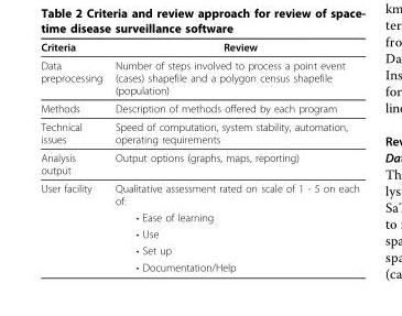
<table><thead><tr><td>Criteria</td><td>Review</td></tr></thead><tbody><tr><td>Data preprocessing</td><td>Number of steps involved to process a point event (cases) shapefile and a polygon census shapefile (population)</td></tr><tr><td>Methods</td><td>Description of methods offered by each program</td></tr><tr><td>Technical issues</td><td>Speed of computation, system stability, automation, operating requirements</td></tr><tr><td>Analysis output</td><td>Output options (graphs, maps, reporting)</td></tr><tr><td rowspan="5">User facility</td><td>Qualitative assessment rated on scale of 1 - 5 on each of:</td></tr><tr><td>• Ease of learning</td></tr><tr><td>• Use</td></tr><tr><td>• Set up</td></tr><tr><td>• Documentation/Help</td></tr></tbody></table>